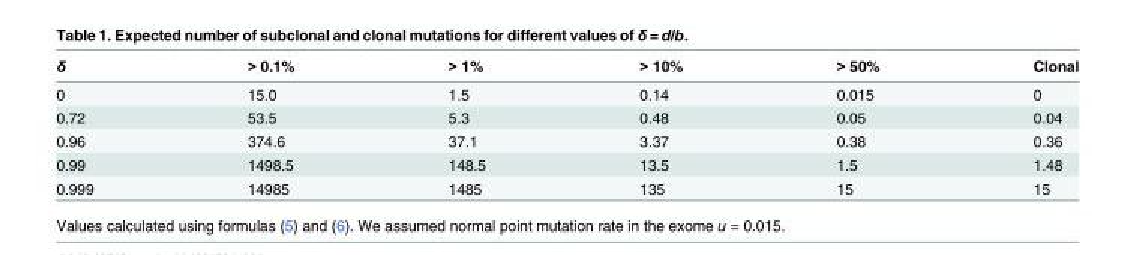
<table><thead><tr><td>δ</td><td>&gt; 0.1%</td><td>&gt; 1%</td><td>&gt; 10%</td><td>&gt; 50%</td><td>Clonal</td></tr></thead><tbody><tr><td>0</td><td>15.0</td><td>1.5</td><td>0.14</td><td>0.015</td><td>0</td></tr><tr><td>0.72</td><td>53.5</td><td>5.3</td><td>0.48</td><td>0.05</td><td>0.04</td></tr><tr><td>0.96</td><td>374.6</td><td>37.1</td><td>3.37</td><td>0.38</td><td>0.36</td></tr><tr><td>0.99</td><td>1498.5</td><td>148.5</td><td>13.5</td><td>1.5</td><td>1.48</td></tr><tr><td>0.999</td><td>14985</td><td>1485</td><td>135</td><td>15</td><td>15</td></tr></tbody></table>